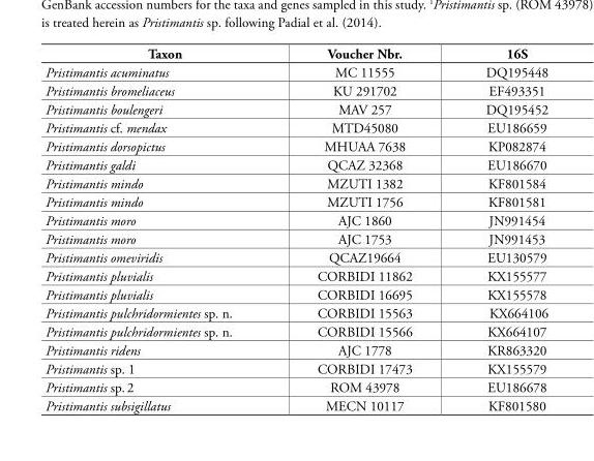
<table><thead><tr><td>Taxon</td><td>Voucher Nbr.</td><td>16S</td></tr></thead><tbody><tr><td>Pristimantis acuminatus</td><td>MC 11555</td><td>DQ195448</td></tr><tr><td>Pristimantis bromeliaceus</td><td>KU 291702</td><td>EF493351</td></tr><tr><td>Pristimantis boulengeri</td><td>MAV 257</td><td>DQ195452</td></tr><tr><td>Pristimantis cf. mendax</td><td>MTD45080</td><td>EU186659</td></tr><tr><td>Pristimantis dorsopictus</td><td>MHUAA 7638</td><td>KP082874</td></tr><tr><td>Pristimantis galdi</td><td>QCAZ 32368</td><td>EU186670</td></tr><tr><td>Pristimantis mindo</td><td>MZUTI 1382</td><td>KF801584</td></tr><tr><td>Pristimantis mindo</td><td>MZUTI 1756</td><td>KF801581</td></tr><tr><td>Pristimantis moro</td><td>AJC 1860</td><td>JN991454</td></tr><tr><td>Pristimantis moro</td><td>AJC 1753</td><td>JN991453</td></tr><tr><td>Pristimantis omeviridis</td><td>QCAZ19664</td><td>EU130579</td></tr><tr><td>Pristimantis pluvialis</td><td>CORBIDI 11862</td><td>KX155577</td></tr><tr><td>Pristimantis pluvialis</td><td>CORBIDI 16695</td><td>KX155578</td></tr><tr><td>Pristimantis pulchridormientes sp. n.</td><td>CORBIDI 15563</td><td>KX664106</td></tr><tr><td>Pristimantis pulchridormientes sp. n.</td><td>CORBIDI 15566</td><td>KX664107</td></tr><tr><td>Pristimantis ridens</td><td>AJC 1778</td><td>KR863320</td></tr><tr><td>Pristimantis sp. 1</td><td>CORBIDI 17473</td><td>KX155579</td></tr><tr><td>Pristimantis sp. 2</td><td>ROM 43978</td><td>EU186678</td></tr><tr><td>Pristimantis subsigillatus</td><td>MECN 10117</td><td>KF801580</td></tr></tbody></table>